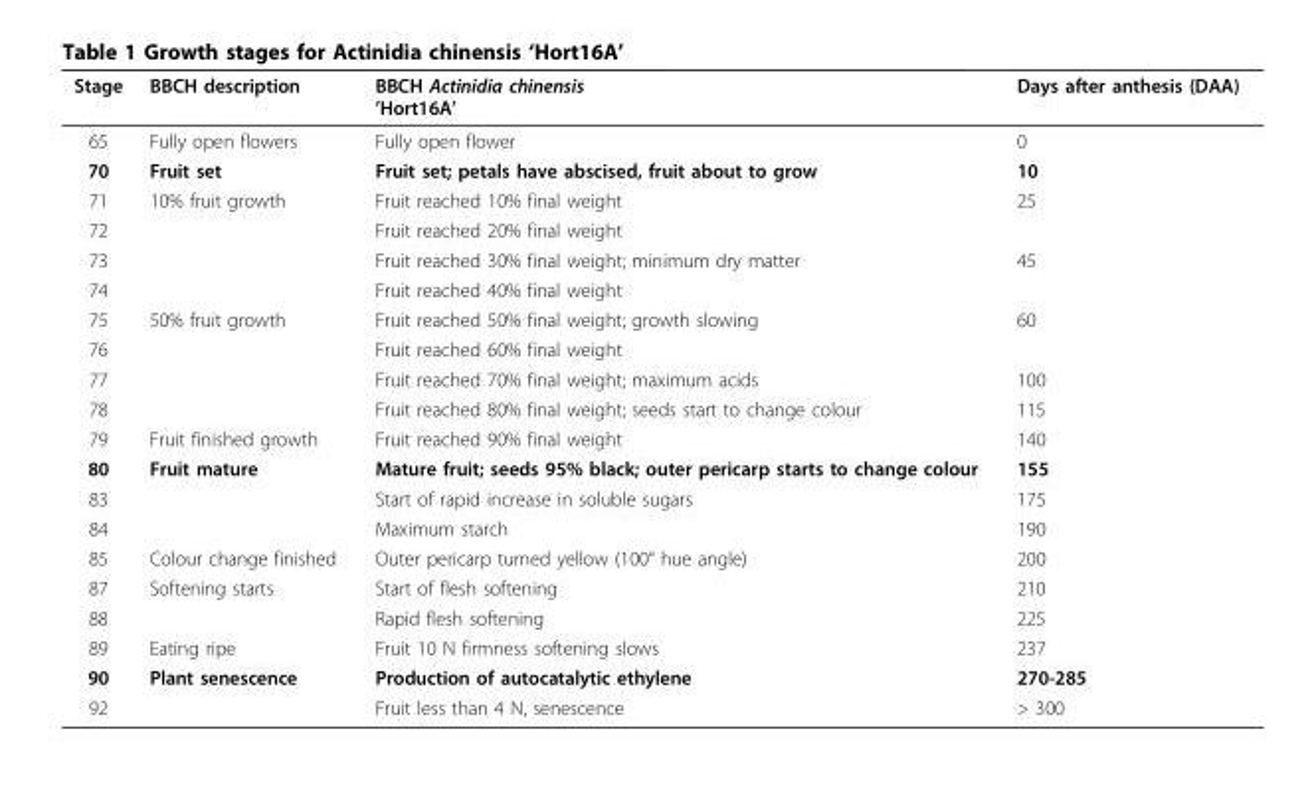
<table><thead><tr><td>Stage</td><td>BBCH description</td><td>BBCH Actinidia chinensis ’Hort16A’</td><td>Days after anthesis (DAA)</td></tr></thead><tbody><tr><td>65</td><td>Fully open flowers</td><td>Fully open flower</td><td>0</td></tr><tr><td>70</td><td>Fruit set</td><td>Fruit set; petals have abscised, fruit about to grow</td><td>10</td></tr><tr><td>71</td><td>10% fruit growth</td><td>Fruit reached 10% final weight</td><td>25</td></tr><tr><td>72</td><td></td><td>Fruit reached 20% final weight</td><td></td></tr><tr><td>73</td><td></td><td>Fruit reached 30% final weight; minimum dry matter</td><td>45</td></tr><tr><td>74</td><td></td><td>Fruit reached 40% final weight</td><td></td></tr><tr><td>75</td><td>50% fruit growth</td><td>Fruit reached 50% final weight; growth slowing</td><td>60</td></tr><tr><td>76</td><td></td><td>Fruit reached 60% final weight</td><td></td></tr><tr><td>77</td><td></td><td>Fruit reached 70% final weight; maximum acids</td><td>100</td></tr><tr><td>78</td><td></td><td>Fruit reached 80% final weight; seeds start to change colour</td><td>115</td></tr><tr><td>79</td><td>Fruit finished growth</td><td>Fruit reached 90% final weight</td><td>140</td></tr><tr><td>80</td><td>Fruit mature</td><td>Mature fruit; seeds 95% black; outer pericarp starts to change colour</td><td>155</td></tr><tr><td>83</td><td></td><td>Start of rapid increase in soluble sugars</td><td>175</td></tr><tr><td>84</td><td></td><td>Maximum starch</td><td>190</td></tr><tr><td>85</td><td>Colour change finished</td><td>Outer pericarp turned yellow (100° hue angle)</td><td>200</td></tr><tr><td>87</td><td>Softening starts</td><td>Start of flesh softening</td><td>210</td></tr><tr><td>88</td><td></td><td>Rapid flesh softening</td><td>225</td></tr><tr><td>89</td><td>Eating ripe</td><td>Fruit 10 N firmness softening slows</td><td>237</td></tr><tr><td>90</td><td>Plant senescence</td><td>Production of autocatalytic ethylene</td><td>270-285</td></tr><tr><td>92</td><td></td><td>Fruit less than 4 N, senescence</td><td>&gt; 300</td></tr></tbody></table>